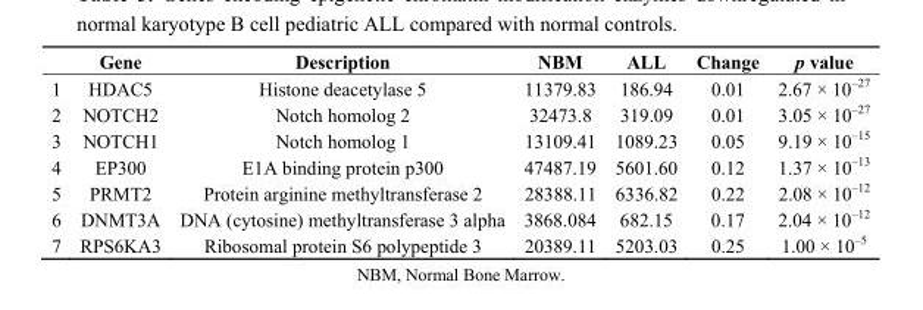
<table><thead><tr><td></td><td>Gene</td><td>Description</td><td>NBM</td><td>ALL</td><td>Change</td><td>p value</td></tr></thead><tbody><tr><td>1</td><td>HDAC5</td><td>Histone deacetylase 5</td><td>11379.83</td><td>186.94</td><td>0.01</td><td>2.67 × 10<sup>−27</sup></td></tr><tr><td>2</td><td>NOTCH2</td><td>Notch homolog 2</td><td>32473.8</td><td>319.09</td><td>0.01</td><td>3.05 × 10<sup>−27</sup></td></tr><tr><td>3</td><td>NOTCH1</td><td>Notch homolog 1</td><td>13109.41</td><td>1089.23</td><td>0.05</td><td>9.19 × 10<sup>−15</sup></td></tr><tr><td>4</td><td>EP300</td><td>E1A binding protein p300</td><td>47487.19</td><td>5601.60</td><td>0.12</td><td>1.37 × 10<sup>−13</sup></td></tr><tr><td>5</td><td>PRMT2</td><td>Protein arginine methyltransferase 2</td><td>28388.11</td><td>6336.82</td><td>0.22</td><td>2.08 × 10<sup>−12</sup></td></tr><tr><td>6</td><td>DNMT3A</td><td>DNA (cytosine) methyltransferase 3 alpha</td><td>3868.084</td><td>682.15</td><td>0.17</td><td>2.04 × 10<sup>−12</sup></td></tr><tr><td>7</td><td>RPS6KA3</td><td>Ribosomal protein S6 polypeptide 3</td><td>20389.11</td><td>5203.03</td><td>0.25</td><td>1.00 × 10<sup>−5</sup></td></tr></tbody></table>